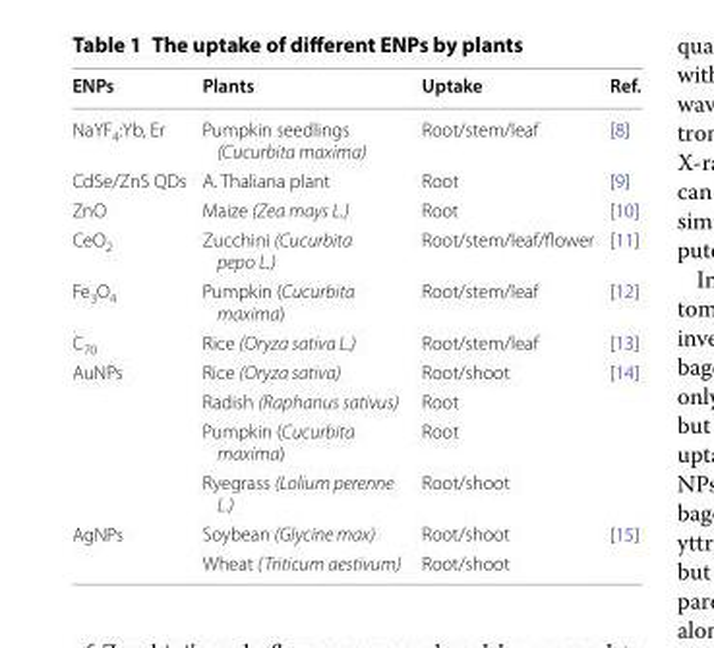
<table><thead><tr><td>ENPs</td><td>Plants</td><td>Uptake</td><td>Ref.</td></tr></thead><tbody><tr><td>NaYF<sub>4</sub>:Yb, Er</td><td>Pumpkin seedlings (Cucurbita maxima)</td><td>Root/stem/leaf</td><td>[8]</td></tr><tr><td>CdSe/ZnS QDs</td><td>A. Thaliana plant</td><td>Root</td><td>[9]</td></tr><tr><td>ZnO</td><td>Maize (Zea mays L.)</td><td>Root</td><td>[10]</td></tr><tr><td>CeO<sub>2</sub></td><td>Zucchini (Cucurbita pepo L.)</td><td>Root/stem/leaf/flower</td><td>[11]</td></tr><tr><td>Fe<sub>3</sub>O<sub>4</sub></td><td>Pumpkin (Cucurbita maxima)</td><td>Root/stem/leaf</td><td>[12]</td></tr><tr><td>C<sub>70</sub></td><td>Rice (Oryza sativa L.)</td><td>Root/stem/leaf</td><td>[13]</td></tr><tr><td rowspan="4">AuNPs</td><td>Rice (Oryza sativa)</td><td>Root/shoot</td><td rowspan="4">[14]</td></tr><tr><td>Radish (Raphanus sativus)</td><td>Root</td></tr><tr><td>Pumpkin (Cucurbita maxima)</td><td>Root</td></tr><tr><td>Ryegrass (Lolium perenne L.)</td><td>Root/shoot</td></tr><tr><td rowspan="2">AgNPs</td><td>Soybean (Glycine max)</td><td>Root/shoot</td><td rowspan="2">[15]</td></tr><tr><td>Wheat (Triticum aestivum)</td><td>Root/shoot</td></tr></tbody></table>